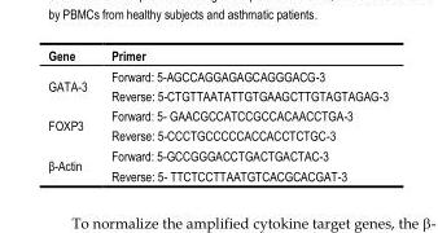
<table><thead><tr><td>Gene</td><td>Primer</td></tr></thead><tbody><tr><td>GATA-3</td><td>Forward: 5-AGCCAGGAGAGCAGGGACG-3 Reverse: 5-CTGTTAATATTGTGAAGCTTGTAGTAGAG-3</td></tr><tr><td>FOXP3</td><td>Forward: 5- GAACGCCATCCGCCACAACCTGA-3 Reverse: 5-CCCTGCCCCCACCACCTCTGC-3</td></tr><tr><td>β-Actin</td><td>Forward: 5-GCCGGGACCTGACTGACTAC-3 Reverse: 5- TTCTCCTTAATGTCACGCACGAT-3</td></tr></tbody></table>